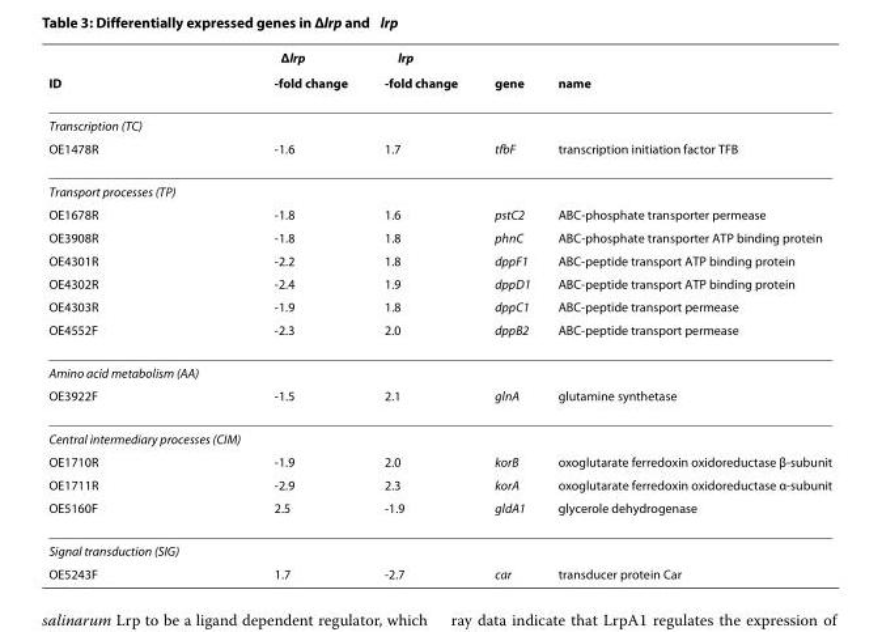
<table><thead><tr><td rowspan="2">ID</td><td rowspan="2">Δlrp -fold change</td><td rowspan="2">↑lrp -fold change</td><td rowspan="2">gene</td><td rowspan="2">name</td></tr><tr></tr></thead><tbody><tr><td colspan="5">Transcription (TC)</td></tr><tr><td>OE1478R</td><td>-1.6</td><td>1.7</td><td>tfbF</td><td>transcription initiation factor TFB</td></tr><tr><td colspan="5">Transport processes (TP)</td></tr><tr><td>OE1678R</td><td>-1.8</td><td>1.6</td><td>pstC2</td><td>ABC-phosphate transporter permease</td></tr><tr><td>OE3908R</td><td>-1.8</td><td>1.8</td><td>phnC</td><td>ABC-phosphate transporter ATP binding protein</td></tr><tr><td>OE4301R</td><td>-2.2</td><td>1.8</td><td>dppF1</td><td>ABC-peptide transport ATP binding protein</td></tr><tr><td>OE4302R</td><td>-2.4</td><td>1.9</td><td>dppD1</td><td>ABC-peptide transport ATP binding protein</td></tr><tr><td>OE4303R</td><td>-1.9</td><td>1.8</td><td>dppC1</td><td>ABC-peptide transport permease</td></tr><tr><td>OE4552F</td><td>-2.3</td><td>2.0</td><td>dppB2</td><td>ABC-peptide transport permease</td></tr><tr><td colspan="5">Amino acid metabolism (AA)</td></tr><tr><td>OE3922F</td><td>-1.5</td><td>2.1</td><td>glnA</td><td>glutamine synthetase</td></tr><tr><td colspan="5">Central intermediary processes (CIM)</td></tr><tr><td>OE1710R</td><td>-1.9</td><td>2.0</td><td>korB</td><td>oxoglutarate ferredoxin oxidoreductase β-subunit</td></tr><tr><td>OE1711R</td><td>-2.9</td><td>2.3</td><td>korA</td><td>oxoglutarate ferredoxin oxidoreductase α-subunit</td></tr><tr><td>OE5160F</td><td>2.5</td><td>-1.9</td><td>gldA1</td><td>glycerole dehydrogenase</td></tr><tr><td colspan="5">Signal transduction (SIG)</td></tr><tr><td>OE5243F</td><td>1.7</td><td>-2.7</td><td>car</td><td>transducer protein Car</td></tr></tbody></table>